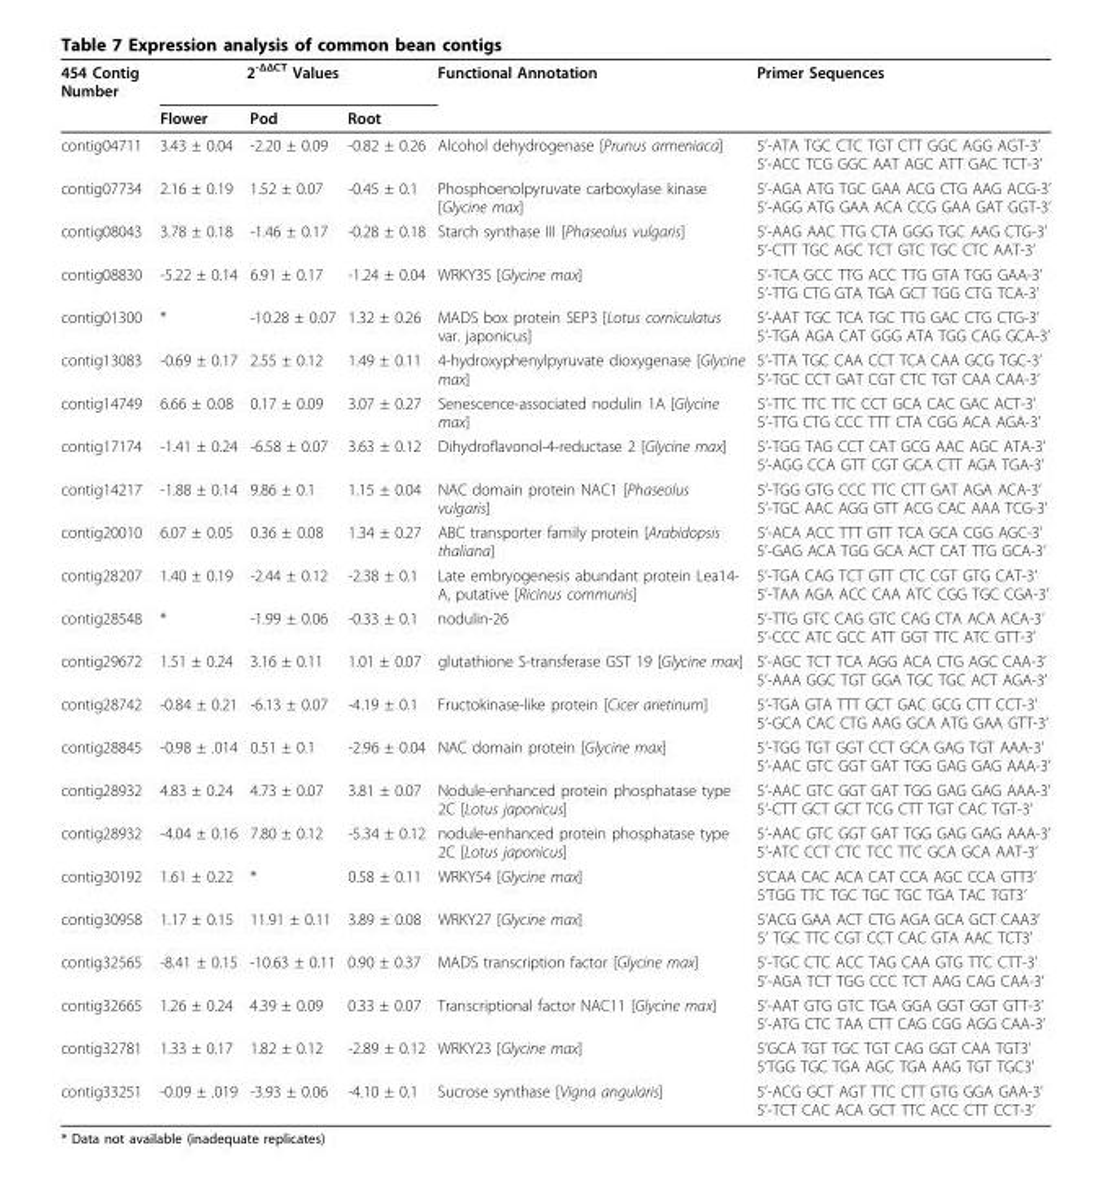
<table><thead><tr><td rowspan="2">454 Contig Number</td><td colspan="3">2<sup>-ΔΔCT</sup> Values</td><td rowspan="2">Functional Annotation</td><td rowspan="2">Primer Sequences</td></tr><tr><td>Flower</td><td>Pod</td><td>Root</td></tr></thead><tbody><tr><td>contig04711</td><td>3.43 ± 0.04</td><td>-2.20 ± 0.09</td><td>-0.82 ± 0.26</td><td>Alcohol dehydrogenase [Prunus armeniaca]</td><td>5’-ATA TGC CTC TGT CTT GGC AGG AGT-3’ 5’-ACC TCG GGC AAT AGC ATT GAC TCT-3’</td></tr><tr><td>contig07734</td><td>2.16 ± 0.19</td><td>1.52 ± 0.07</td><td>-0.45 ± 0.1</td><td>Phosphoenolpyruvate carboxylase kinase [Glycine max]</td><td>5’-AGA ATG TGC GAA ACG CTG AAG ACG-3’ 5’-AGG ATG GAA ACA CCG GAA GAT GGT-3’</td></tr><tr><td>contig08043</td><td>3.78 ± 0.18</td><td>-1.46 ± 0.17</td><td>-0.28 ± 0.18</td><td>Starch synthase III [Phaseolus vulgaris]</td><td>5’-AAG AAC TTG CTA GGG TGC AAG CTG-3’ 5’-CTT TGC AGC TCT GTC TGC CTC AAT-3’</td></tr><tr><td>contig08830</td><td>-5.22 ± 0.14</td><td>6.91 ± 0.17</td><td>-1.24 ± 0.04</td><td>WRKY35 [Glycine max]</td><td>5’-TCA GCC TTG ACC TTG GTA TGG GAA-3’ 5’-TTG CTG GTA TGA GCT TGG CTG TCA-3’</td></tr><tr><td>contig01300</td><td>*</td><td>-10.28 ± 0.07</td><td>1.32 ± 0.26</td><td>MADS box protein SEP3 [Lotus corniculatus var. japonicus]</td><td>5’-AAT TGC TCA TGC TTG GAC CTG CTG-3’ 5’-TGA AGA CAT GGG ATA TGG CAG GCA-3’</td></tr><tr><td>contig13083</td><td>-0.69 ± 0.17</td><td>2.55 ± 0.12</td><td>1.49 ± 0.11</td><td>4-hydroxyphenylpyruvate dioxygenase [Glycine max]</td><td>5’-TTA TGC CAA CCT TCA CAA GCG TGC-3’ 5’-TGC CCT GAT CGT CTC TGT CAA CAA-3’</td></tr><tr><td>contig14749</td><td>6.66 ± 0.08</td><td>0.17 ± 0.09</td><td>3.07 ± 0.27</td><td>Senescence-associated nodulin 1A [Glycine max]</td><td>5’-TTC TTC TTC CCT GCA CAC GAC ACT-3’ 5’-TTG CTG CCC TTT CTA CGG ACA AGA-3’</td></tr><tr><td>contig17174</td><td>-1.41 ± 0.24</td><td>-6.58 ± 0.07</td><td>3.63 ± 0.12</td><td>Dihydroflavonol-4-reductase 2 [Glycine max]</td><td>5’-TGG TAG CCT CAT GCG AAC AGC ATA-3’ 5’-AGG CCA GTT CGT GCA CTT AGA TGA-3’</td></tr><tr><td>contig14217</td><td>-1.88 ± 0.14</td><td>9.86 ± 0.1</td><td>1.15 ± 0.04</td><td>NAC domain protein NAC1 [Phaseolus vulgaris]</td><td>5’-TGG GTG CCC TTC CTT GAT AGA ACA-3’ 5’-TGC AAC AGG GTT ACG CAC AAA TCG-3’</td></tr><tr><td>contig20010</td><td>6.07 ± 0.05</td><td>0.36 ± 0.08</td><td>1.34 ± 0.27</td><td>ABC transporter family protein [Arabidopsis thaliana]</td><td>5’-ACA ACC TTT GTT TCA GCA CGG AGC-3’ 5’-GAG ACA TGG GCA ACT CAT TTG GCA-3’</td></tr><tr><td>contig28207</td><td>1.40 ± 0.19</td><td>-2.44 ± 0.12</td><td>-2.38 ± 0.1</td><td>Late embryogenesis abundant protein Lea14- A, putative [Ricinus communis]</td><td>5’-TGA CAG TCT GTT CTC CGT GTG CAT-3’ 5’-TAA AGA ACC CAA ATC CGG TGC CGA-3’</td></tr><tr><td>contig28548</td><td>*</td><td>-1.99 ± 0.06</td><td>-0.33 ± 0.1</td><td>nodulin-26</td><td>5’-TTG GTC CAG GTC CAG CTA ACA ACA-3’ 5’-CCC ATC GCC ATT GGT TTC ATC GTT-3’</td></tr><tr><td>contig29672</td><td>1.51 ± 0.24</td><td>3.16 ± 0.11</td><td>1.01 ± 0.07</td><td>glutathione S-transferase GST 19 [Glycine max]</td><td>5’-AGC TCT TCA AGG ACA CTG AGC CAA-3’ 5’-AAA GGC TGT GGA TGC TGC ACT AGA-3’</td></tr><tr><td>contig28742</td><td>-0.84 ± 0.21</td><td>-6.13 ± 0.07</td><td>-4.19 ± 0.1</td><td>Fructokinase-like protein [Cicer arietinum]</td><td>5’-TGA GTA TTT GCT GAC GCG CTT CCT-3’ 5’-GCA CAC CTG AAG GCA ATG GAA GTT-3’</td></tr><tr><td>contig28845</td><td>-0.98 ± .014</td><td>0.51 ± 0.1</td><td>-2.96 ± 0.04</td><td>NAC domain protein [Glycine max]</td><td>5’-TGG TGT GGT CCT GCA GAG TGT AAA-3’ 5’-AAC GTC GGT GAT TGG GAG GAG AAA-3’</td></tr><tr><td>contig28932</td><td>4.83 ± 0.24</td><td>4.73 ± 0.07</td><td>3.81 ± 0.07</td><td>Nodule-enhanced protein phosphatase type 2C [Lotus japonicus]</td><td>5’-AAC GTC GGT GAT TGG GAG GAG AAA-3’ 5’-CTT GCT GCT TCG CTT TGT CAC TGT-3’</td></tr><tr><td>contig28932</td><td>-4.04 ± 0.16</td><td>7.80 ± 0.12</td><td>-5.34 ± 0.12</td><td>nodule-enhanced protein phosphatase type 2C [Lotus japonicus]</td><td>5’-AAC GTC GGT GAT TGG GAG GAG AAA-3’ 5’-ATC CCT CTC TCC TTC GCA GCA AAT-3’</td></tr><tr><td>contig30192</td><td>1.61 ± 0.22</td><td>*</td><td>0.58 ± 0.11</td><td>WRKY54 [Glycine max]</td><td>5’CAA CAC ACA CAT CCA AGC CCA GTT3’ 5’TGG TTC TGC TGC TGC TGA TAC TGT3’</td></tr><tr><td>contig30958</td><td>1.17 ± 0.15</td><td>11.91 ± 0.11</td><td>3.89 ± 0.08</td><td>WRKY27 [Glycine max]</td><td>5’ACG GAA ACT CTG AGA GCA GCT CAA3’ 5’ TGC TTC CGT CCT CAC GTA AAC TCT3’</td></tr><tr><td>contig32565</td><td>-8.41 ± 0.15</td><td>-10.63 ± 0.11</td><td>0.90 ± 0.37</td><td>MADS transcription factor [Glycine max]</td><td>5’-TGC CTC ACC TAG CAA GTG TTC CTT-3’ 5’-AGA TCT TGG CCC TCT AAG CAG CAA-3’</td></tr><tr><td>contig32665</td><td>1.26 ± 0.24</td><td>4.39 ± 0.09</td><td>0.33 ± 0.07</td><td>Transcriptional factor NAC11 [Glycine max]</td><td>5’-AAT GTG GTC TGA GGA GGT GGT GTT-3’ 5’-ATG CTC TAA CTT CAG CGG AGG CAA-3’</td></tr><tr><td>contig32781</td><td>1.33 ± 0.17</td><td>1.82 ± 0.12</td><td>-2.89 ± 0.12</td><td>WRKY23 [Glycine max]</td><td>5’GCA TGT TGC TGT CAG GGT CAA TGT3’ 5’TGG TGC TGA AGC TGA AAG TGT TGC3’</td></tr><tr><td>contig33251</td><td>-0.09 ± .019</td><td>-3.93 ± 0.06</td><td>-4.10 ± 0.1</td><td>Sucrose synthase [Vigna angularis]</td><td>5’-ACG GCT AGT TTC CTT GTG GGA GAA-3’ 5’-TCT CAC ACA GCT TTC ACC CTT CCT-3’</td></tr></tbody></table>